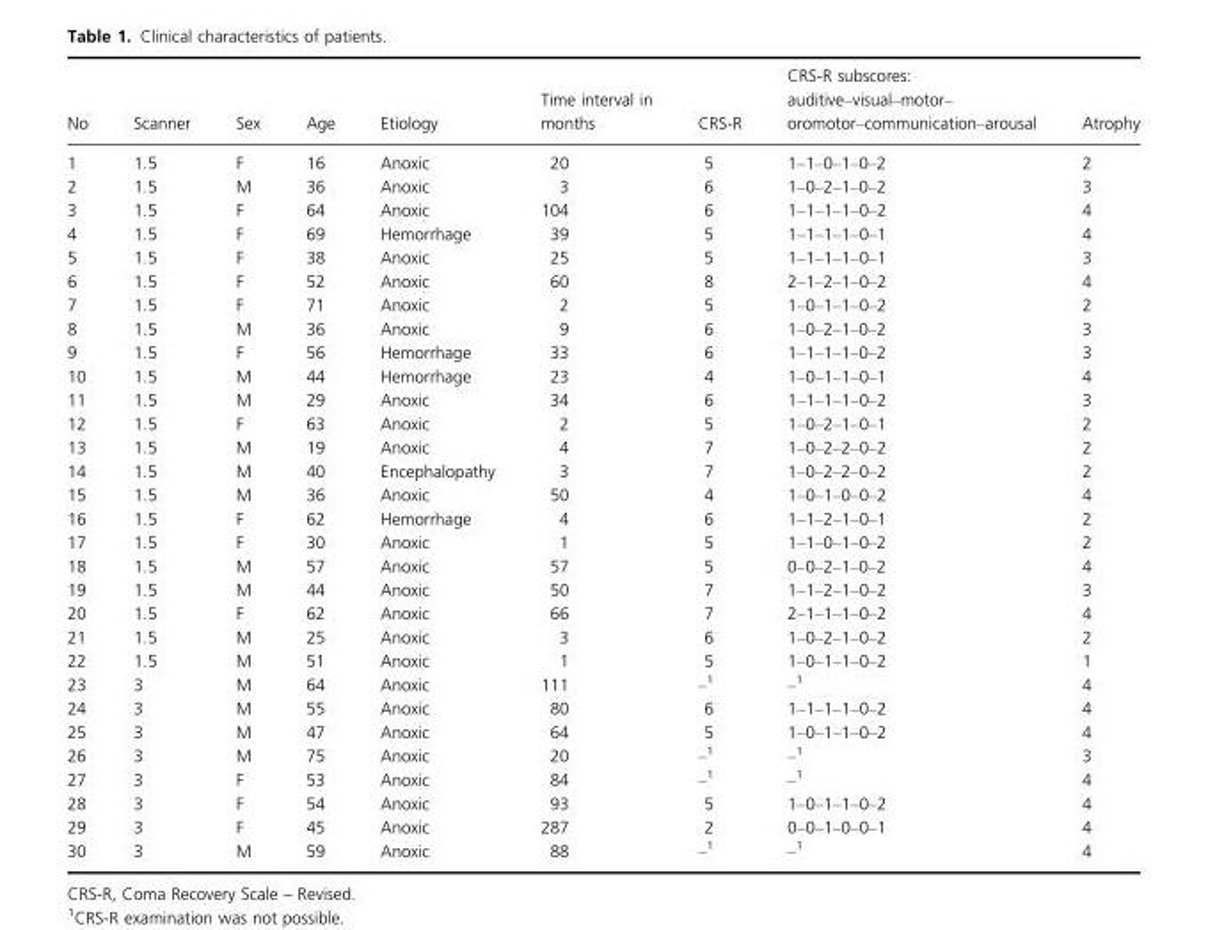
<table><thead><tr><td>No</td><td>Scanner</td><td>Sex</td><td>Age</td><td>Etiology</td><td>Time interval in months</td><td>CRS-R</td><td>CRS-R subscores: auditive–visual–motor– oromotor–communication–arousal</td><td>Atrophy</td></tr></thead><tbody><tr><td>1</td><td>1.5</td><td>F</td><td>16</td><td>Anoxic</td><td>20</td><td>5</td><td>1–1–0–1–0–2</td><td>2</td></tr><tr><td>2</td><td>1.5</td><td>M</td><td>36</td><td>Anoxic</td><td>3</td><td>6</td><td>1–0–2–1–0–2</td><td>3</td></tr><tr><td>3</td><td>1.5</td><td>F</td><td>64</td><td>Anoxic</td><td>104</td><td>6</td><td>1–1–1–1–0–2</td><td>4</td></tr><tr><td>4</td><td>1.5</td><td>F</td><td>69</td><td>Hemorrhage</td><td>39</td><td>5</td><td>1–1–1–1–0–1</td><td>4</td></tr><tr><td>5</td><td>1.5</td><td>F</td><td>38</td><td>Anoxic</td><td>25</td><td>5</td><td>1–1–1–1–0–1</td><td>3</td></tr><tr><td>6</td><td>1.5</td><td>F</td><td>52</td><td>Anoxic</td><td>60</td><td>8</td><td>2–1–2–1–0–2</td><td>4</td></tr><tr><td>7</td><td>1.5</td><td>F</td><td>71</td><td>Anoxic</td><td>2</td><td>5</td><td>1–0–1–1–0–2</td><td>2</td></tr><tr><td>8</td><td>1.5</td><td>M</td><td>36</td><td>Anoxic</td><td>9</td><td>6</td><td>1–0–2–1–0–2</td><td>3</td></tr><tr><td>9</td><td>1.5</td><td>F</td><td>56</td><td>Hemorrhage</td><td>33</td><td>6</td><td>1–1–1–1–0–2</td><td>3</td></tr><tr><td>10</td><td>1.5</td><td>M</td><td>44</td><td>Hemorrhage</td><td>23</td><td>4</td><td>1–0–1–1–0–1</td><td>4</td></tr><tr><td>11</td><td>1.5</td><td>M</td><td>29</td><td>Anoxic</td><td>34</td><td>6</td><td>1–1–1–1–0–2</td><td>3</td></tr><tr><td>12</td><td>1.5</td><td>F</td><td>63</td><td>Anoxic</td><td>2</td><td>5</td><td>1–0–2–1–0–1</td><td>2</td></tr><tr><td>13</td><td>1.5</td><td>M</td><td>19</td><td>Anoxic</td><td>4</td><td>7</td><td>1–0–2–2–0–2</td><td>2</td></tr><tr><td>14</td><td>1.5</td><td>M</td><td>40</td><td>Encephalopathy</td><td>3</td><td>7</td><td>1–0–2–2–0–2</td><td>2</td></tr><tr><td>15</td><td>1.5</td><td>M</td><td>36</td><td>Anoxic</td><td>50</td><td>4</td><td>1–0–1–0–0–2</td><td>4</td></tr><tr><td>16</td><td>1.5</td><td>F</td><td>62</td><td>Hemorrhage</td><td>4</td><td>6</td><td>1–1–2–1–0–1</td><td>2</td></tr><tr><td>17</td><td>1.5</td><td>F</td><td>30</td><td>Anoxic</td><td>1</td><td>5</td><td>1–1–0–1–0–2</td><td>2</td></tr><tr><td>18</td><td>1.5</td><td>M</td><td>57</td><td>Anoxic</td><td>57</td><td>5</td><td>0–0–2–1–0–2</td><td>4</td></tr><tr><td>19</td><td>1.5</td><td>M</td><td>44</td><td>Anoxic</td><td>50</td><td>7</td><td>1–1–2–1–0–2</td><td>3</td></tr><tr><td>20</td><td>1.5</td><td>F</td><td>62</td><td>Anoxic</td><td>66</td><td>7</td><td>2–1–1–1–0–2</td><td>4</td></tr><tr><td>21</td><td>1.5</td><td>M</td><td>25</td><td>Anoxic</td><td>3</td><td>6</td><td>1–0–2–1–0–2</td><td>2</td></tr><tr><td>22</td><td>1.5</td><td>M</td><td>51</td><td>Anoxic</td><td>1</td><td>5</td><td>1–0–1–1–0–2</td><td>1</td></tr><tr><td>23</td><td>3</td><td>M</td><td>64</td><td>Anoxic</td><td>111</td><td>–<sup>1</sup></td><td>–<sup>1</sup></td><td>4</td></tr><tr><td>24</td><td>3</td><td>M</td><td>55</td><td>Anoxic</td><td>80</td><td>6</td><td>1–1–1–1–0–2</td><td>4</td></tr><tr><td>25</td><td>3</td><td>M</td><td>47</td><td>Anoxic</td><td>64</td><td>5</td><td>1–0–1–1–0–2</td><td>4</td></tr><tr><td>26</td><td>3</td><td>M</td><td>75</td><td>Anoxic</td><td>20</td><td>–<sup>1</sup></td><td>–<sup>1</sup></td><td>3</td></tr><tr><td>27</td><td>3</td><td>F</td><td>53</td><td>Anoxic</td><td>84</td><td>–<sup>1</sup></td><td>–<sup>1</sup></td><td>4</td></tr><tr><td>28</td><td>3</td><td>F</td><td>54</td><td>Anoxic</td><td>93</td><td>5</td><td>1–0–1–1–0–2</td><td>4</td></tr><tr><td>29</td><td>3</td><td>F</td><td>45</td><td>Anoxic</td><td>287</td><td>2</td><td>0–0–1–0–0–1</td><td>4</td></tr><tr><td>30</td><td>3</td><td>M</td><td>59</td><td>Anoxic</td><td>88</td><td>–<sup>1</sup></td><td>–<sup>1</sup></td><td>4</td></tr></tbody></table>